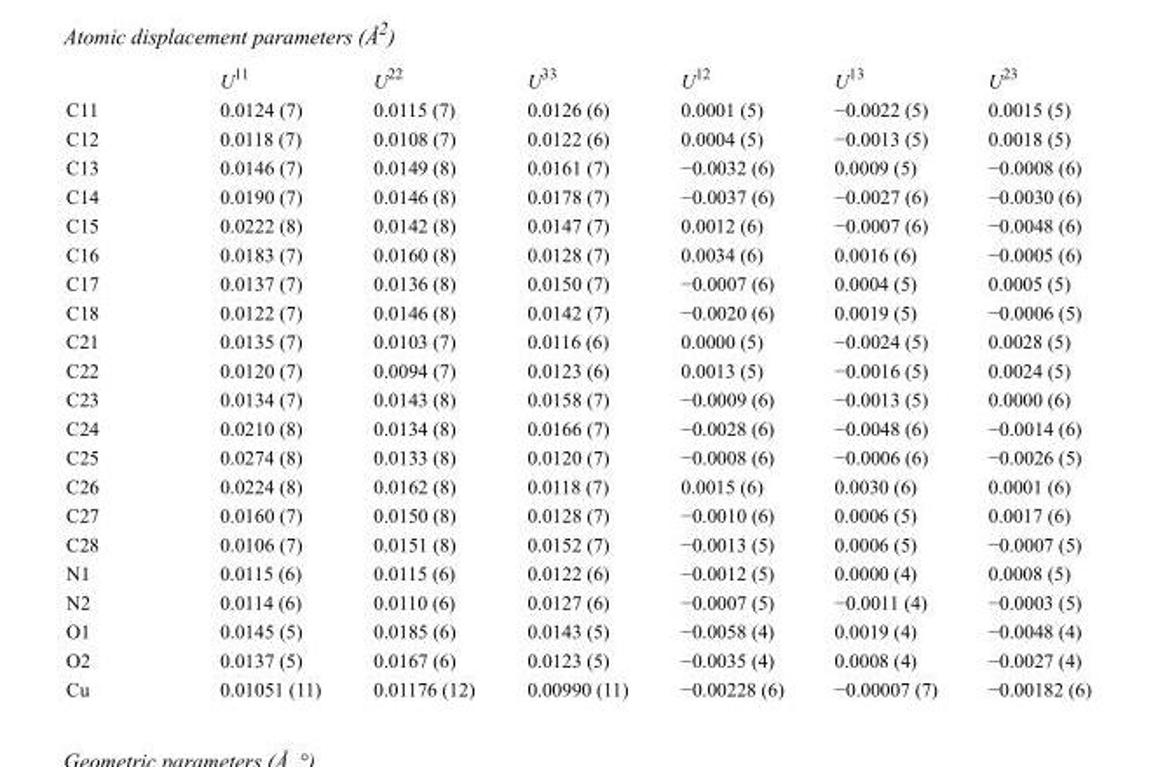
<table><thead><tr><td></td><td>U<sup>11</sup></td><td>U<sup>22</sup></td><td>U<sup>33</sup></td><td>U<sup>12</sup></td><td>U<sup>13</sup></td><td>U<sup>23</sup></td></tr></thead><tbody><tr><td>C11</td><td>0.0124 (7)</td><td>0.0115 (7)</td><td>0.0126 (6)</td><td>0.0001 (5)</td><td>−0.0022 (5)</td><td>0.0015 (5)</td></tr><tr><td>C12</td><td>0.0118 (7)</td><td>0.0108 (7)</td><td>0.0122 (6)</td><td>0.0004 (5)</td><td>−0.0013 (5)</td><td>0.0018 (5)</td></tr><tr><td>C13</td><td>0.0146 (7)</td><td>0.0149 (8)</td><td>0.0161 (7)</td><td>−0.0032 (6)</td><td>0.0009 (5)</td><td>−0.0008 (6)</td></tr><tr><td>C14</td><td>0.0190 (7)</td><td>0.0146 (8)</td><td>0.0178 (7)</td><td>−0.0037 (6)</td><td>−0.0027 (6)</td><td>−0.0030 (6)</td></tr><tr><td>C15</td><td>0.0222 (8)</td><td>0.0142 (8)</td><td>0.0147 (7)</td><td>0.0012 (6)</td><td>−0.0007 (6)</td><td>−0.0048 (6)</td></tr><tr><td>C16</td><td>0.0183 (7)</td><td>0.0160 (8)</td><td>0.0128 (7)</td><td>0.0034 (6)</td><td>0.0016 (6)</td><td>−0.0005 (6)</td></tr><tr><td>C17</td><td>0.0137 (7)</td><td>0.0136 (8)</td><td>0.0150 (7)</td><td>−0.0007 (6)</td><td>0.0004 (5)</td><td>0.0005 (5)</td></tr><tr><td>C18</td><td>0.0122 (7)</td><td>0.0146 (8)</td><td>0.0142 (7)</td><td>−0.0020 (6)</td><td>0.0019 (5)</td><td>−0.0006 (5)</td></tr><tr><td>C21</td><td>0.0135 (7)</td><td>0.0103 (7)</td><td>0.0116 (6)</td><td>0.0000 (5)</td><td>−0.0024 (5)</td><td>0.0028 (5)</td></tr><tr><td>C22</td><td>0.0120 (7)</td><td>0.0094 (7)</td><td>0.0123 (6)</td><td>0.0013 (5)</td><td>−0.0016 (5)</td><td>0.0024 (5)</td></tr><tr><td>C23</td><td>0.0134 (7)</td><td>0.0143 (8)</td><td>0.0158 (7)</td><td>−0.0009 (6)</td><td>−0.0013 (5)</td><td>0.0000 (6)</td></tr><tr><td>C24</td><td>0.0210 (8)</td><td>0.0134 (8)</td><td>0.0166 (7)</td><td>−0.0028 (6)</td><td>−0.0048 (6)</td><td>−0.0014 (6)</td></tr><tr><td>C25</td><td>0.0274 (8)</td><td>0.0133 (8)</td><td>0.0120 (7)</td><td>−0.0008 (6)</td><td>−0.0006 (6)</td><td>−0.0026 (5)</td></tr><tr><td>C26</td><td>0.0224 (8)</td><td>0.0162 (8)</td><td>0.0118 (7)</td><td>0.0015 (6)</td><td>0.0030 (6)</td><td>0.0001 (6)</td></tr><tr><td>C27</td><td>0.0160 (7)</td><td>0.0150 (8)</td><td>0.0128 (7)</td><td>−0.0010 (6)</td><td>0.0006 (5)</td><td>0.0017 (6)</td></tr><tr><td>C28</td><td>0.0106 (7)</td><td>0.0151 (8)</td><td>0.0152 (7)</td><td>−0.0013 (5)</td><td>0.0006 (5)</td><td>−0.0007 (5)</td></tr><tr><td>N1</td><td>0.0115 (6)</td><td>0.0115 (6)</td><td>0.0122 (6)</td><td>−0.0012 (5)</td><td>0.0000 (4)</td><td>0.0008 (5)</td></tr><tr><td>N2</td><td>0.0114 (6)</td><td>0.0110 (6)</td><td>0.0127 (6)</td><td>−0.0007 (5)</td><td>−0.0011 (4)</td><td>−0.0003 (5)</td></tr><tr><td>O1</td><td>0.0145 (5)</td><td>0.0185 (6)</td><td>0.0143 (5)</td><td>−0.0058 (4)</td><td>0.0019 (4)</td><td>−0.0048 (4)</td></tr><tr><td>O2</td><td>0.0137 (5)</td><td>0.0167 (6)</td><td>0.0123 (5)</td><td>−0.0035 (4)</td><td>0.0008 (4)</td><td>−0.0027 (4)</td></tr><tr><td>Cu</td><td>0.01051 (11)</td><td>0.01176 (12)</td><td>0.00990 (11)</td><td>−0.00228 (6)</td><td>−0.00007 (7)</td><td>−0.00182 (6)</td></tr></tbody></table>